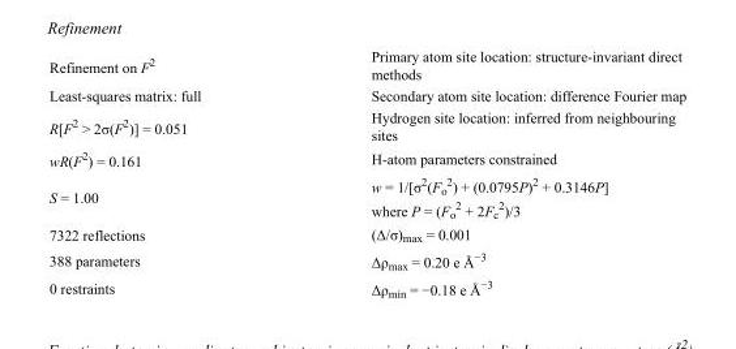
<table><tbody><tr><td>Refinement on F<sup>2</sup></td><td>Primary atom site location: structure-invariant direct methods</td></tr><tr><td>Least-squares matrix: full</td><td>Secondary atom site location: difference Fourier map</td></tr><tr><td>R[F<sup>2</sup> &gt; 2σ(F<sup>2</sup>)] = 0.051</td><td>Hydrogen site location: inferred from neighbouring sites</td></tr><tr><td>wR(F<sup>2</sup>) = 0.161</td><td>H-atom parameters constrained</td></tr><tr><td>S = 1.00</td><td>w = 1/[σ<sup>2</sup>(F<sub>o</sub> <sup>2</sup>) + (0.0795P)<sup>2</sup> + 0.3146P] where P = (F<sub>o</sub> <sup>2</sup> + 2F<sub>c</sub> <sup>2</sup>)/3</td></tr><tr><td>7322 reflections</td><td>(Δ/σ)<sub>max</sub> = 0.001</td></tr><tr><td>388 parameters</td><td>Δρ<sub>max</sub> = 0.20 e Å<sup>−3</sup></td></tr><tr><td>0 restraints</td><td>Δρ<sub>min</sub> = −0.18 e Å<sup>−3</sup></td></tr></tbody></table>